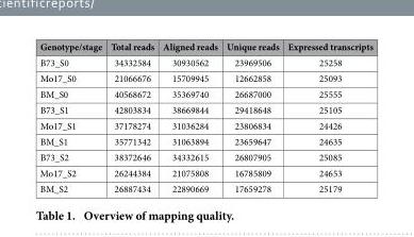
<table><thead><tr><td>Genotype/stage</td><td>Total reads</td><td>Aligned reads</td><td>Unique reads</td><td>Expressed transcripts</td></tr></thead><tbody><tr><td>B73_S0</td><td>34332584</td><td>30930562</td><td>23969506</td><td>25258</td></tr><tr><td>Mo17_S0</td><td>21066676</td><td>15709945</td><td>12662858</td><td>25093</td></tr><tr><td>BM_S0</td><td>40568672</td><td>35369740</td><td>26687000</td><td>25555</td></tr><tr><td>B73_S1</td><td>42803834</td><td>38669844</td><td>29418648</td><td>25105</td></tr><tr><td>Mo17_S1</td><td>37178274</td><td>31036284</td><td>23806834</td><td>24426</td></tr><tr><td>BM_S1</td><td>35771342</td><td>31063894</td><td>23659647</td><td>24635</td></tr><tr><td>B73_S2</td><td>38372646</td><td>34332615</td><td>26807905</td><td>25085</td></tr><tr><td>Mo17_S2</td><td>26244384</td><td>21075808</td><td>16785809</td><td>24653</td></tr><tr><td>BM_S2</td><td>26887434</td><td>22890669</td><td>17659278</td><td>25179</td></tr></tbody></table>